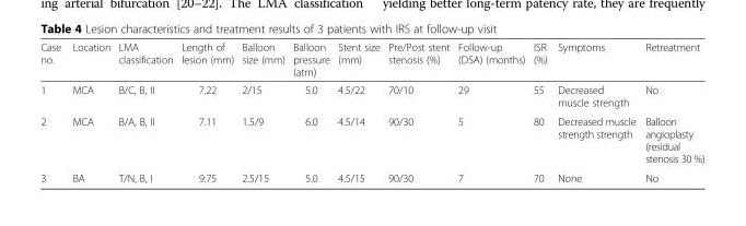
<table><thead><tr><td>Case no.</td><td>Location</td><td>LMA classification</td><td>Length of lesion (mm)</td><td>Balloon size (mm)</td><td>Balloon pressure (atm)</td><td>Stent size (mm)</td><td>Pre/Post stent stenosis (%)</td><td>Follow-up (DSA) (months)</td><td>ISR (%)</td><td>Symptoms</td><td>Retreatment</td></tr></thead><tbody><tr><td>1</td><td>MCA</td><td>B/C, B, II</td><td>7.22</td><td>2/15</td><td>5.0</td><td>4.5/22</td><td>70/10</td><td>29</td><td>55</td><td>Decreased muscle strength</td><td>No</td></tr><tr><td>2</td><td>MCA</td><td>B/A, B, II</td><td>7.11</td><td>1.5/9</td><td>6.0</td><td>4.5/14</td><td>90/30</td><td>5</td><td>80</td><td>Decreased muscle strength strength</td><td>Balloon angioplasty (residual stenosis 30 %)</td></tr><tr><td>3</td><td>BA</td><td>T/N, B, I</td><td>9.75</td><td>2.5/15</td><td>5.0</td><td>4.5/15</td><td>90/30</td><td>7</td><td>70</td><td>None</td><td>No</td></tr></tbody></table>